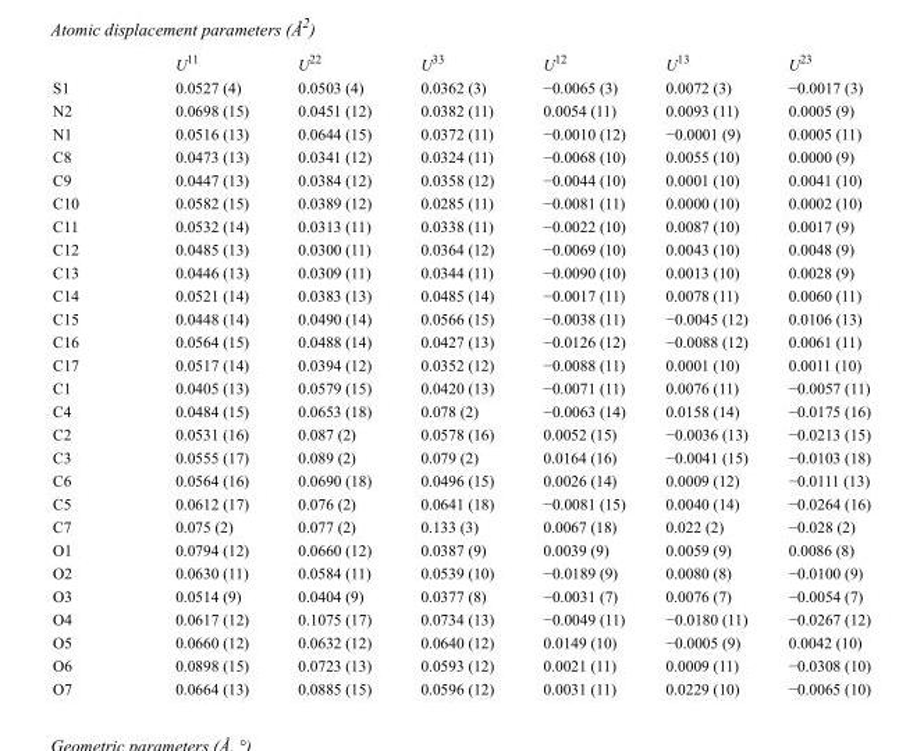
<table><thead><tr><td></td><td>U<sup>11</sup></td><td>U<sup>22</sup></td><td>U<sup>33</sup></td><td>U<sup>12</sup></td><td>U<sup>13</sup></td><td>U<sup>23</sup></td></tr></thead><tbody><tr><td>S1</td><td>0.0527 (4)</td><td>0.0503 (4)</td><td>0.0362 (3)</td><td>−0.0065 (3)</td><td>0.0072 (3)</td><td>−0.0017 (3)</td></tr><tr><td>N2</td><td>0.0698 (15)</td><td>0.0451 (12)</td><td>0.0382 (11)</td><td>0.0054 (11)</td><td>0.0093 (11)</td><td>0.0005 (9)</td></tr><tr><td>N1</td><td>0.0516 (13)</td><td>0.0644 (15)</td><td>0.0372 (11)</td><td>−0.0010 (12)</td><td>−0.0001 (9)</td><td>0.0005 (11)</td></tr><tr><td>C8</td><td>0.0473 (13)</td><td>0.0341 (12)</td><td>0.0324 (11)</td><td>−0.0068 (10)</td><td>0.0055 (10)</td><td>0.0000 (9)</td></tr><tr><td>C9</td><td>0.0447 (13)</td><td>0.0384 (12)</td><td>0.0358 (12)</td><td>−0.0044 (10)</td><td>0.0001 (10)</td><td>0.0041 (10)</td></tr><tr><td>C10</td><td>0.0582 (15)</td><td>0.0389 (12)</td><td>0.0285 (11)</td><td>−0.0081 (11)</td><td>0.0000 (10)</td><td>0.0002 (10)</td></tr><tr><td>C11</td><td>0.0532 (14)</td><td>0.0313 (11)</td><td>0.0338 (11)</td><td>−0.0022 (10)</td><td>0.0087 (10)</td><td>0.0017 (9)</td></tr><tr><td>C12</td><td>0.0485 (13)</td><td>0.0300 (11)</td><td>0.0364 (12)</td><td>−0.0069 (10)</td><td>0.0043 (10)</td><td>0.0048 (9)</td></tr><tr><td>C13</td><td>0.0446 (13)</td><td>0.0309 (11)</td><td>0.0344 (11)</td><td>−0.0090 (10)</td><td>0.0013 (10)</td><td>0.0028 (9)</td></tr><tr><td>C14</td><td>0.0521 (14)</td><td>0.0383 (13)</td><td>0.0485 (14)</td><td>−0.0017 (11)</td><td>0.0078 (11)</td><td>0.0060 (11)</td></tr><tr><td>C15</td><td>0.0448 (14)</td><td>0.0490 (14)</td><td>0.0566 (15)</td><td>−0.0038 (11)</td><td>−0.0045 (12)</td><td>0.0106 (13)</td></tr><tr><td>C16</td><td>0.0564 (15)</td><td>0.0488 (14)</td><td>0.0427 (13)</td><td>−0.0126 (12)</td><td>−0.0088 (12)</td><td>0.0061 (11)</td></tr><tr><td>C17</td><td>0.0517 (14)</td><td>0.0394 (12)</td><td>0.0352 (12)</td><td>−0.0088 (11)</td><td>0.0001 (10)</td><td>0.0011 (10)</td></tr><tr><td>C1</td><td>0.0405 (13)</td><td>0.0579 (15)</td><td>0.0420 (13)</td><td>−0.0071 (11)</td><td>0.0076 (11)</td><td>−0.0057 (11)</td></tr><tr><td>C4</td><td>0.0484 (15)</td><td>0.0653 (18)</td><td>0.078 (2)</td><td>−0.0063 (14)</td><td>0.0158 (14)</td><td>−0.0175 (16)</td></tr><tr><td>C2</td><td>0.0531 (16)</td><td>0.087 (2)</td><td>0.0578 (16)</td><td>0.0052 (15)</td><td>−0.0036 (13)</td><td>−0.0213 (15)</td></tr><tr><td>C3</td><td>0.0555 (17)</td><td>0.089 (2)</td><td>0.079 (2)</td><td>0.0164 (16)</td><td>−0.0041 (15)</td><td>−0.0103 (18)</td></tr><tr><td>C6</td><td>0.0564 (16)</td><td>0.0690 (18)</td><td>0.0496 (15)</td><td>0.0026 (14)</td><td>0.0009 (12)</td><td>−0.0111 (13)</td></tr><tr><td>C5</td><td>0.0612 (17)</td><td>0.076 (2)</td><td>0.0641 (18)</td><td>−0.0081 (15)</td><td>0.0040 (14)</td><td>−0.0264 (16)</td></tr><tr><td>C7</td><td>0.075 (2)</td><td>0.077 (2)</td><td>0.133 (3)</td><td>0.0067 (18)</td><td>0.022 (2)</td><td>−0.028 (2)</td></tr><tr><td>O1</td><td>0.0794 (12)</td><td>0.0660 (12)</td><td>0.0387 (9)</td><td>0.0039 (9)</td><td>0.0059 (9)</td><td>0.0086 (8)</td></tr><tr><td>O2</td><td>0.0630 (11)</td><td>0.0584 (11)</td><td>0.0539 (10)</td><td>−0.0189 (9)</td><td>0.0080 (8)</td><td>−0.0100 (9)</td></tr><tr><td>O3</td><td>0.0514 (9)</td><td>0.0404 (9)</td><td>0.0377 (8)</td><td>−0.0031 (7)</td><td>0.0076 (7)</td><td>−0.0054 (7)</td></tr><tr><td>O4</td><td>0.0617 (12)</td><td>0.1075 (17)</td><td>0.0734 (13)</td><td>−0.0049 (11)</td><td>−0.0180 (11)</td><td>−0.0267 (12)</td></tr><tr><td>O5</td><td>0.0660 (12)</td><td>0.0632 (12)</td><td>0.0640 (12)</td><td>0.0149 (10)</td><td>−0.0005 (9)</td><td>0.0042 (10)</td></tr><tr><td>O6</td><td>0.0898 (15)</td><td>0.0723 (13)</td><td>0.0593 (12)</td><td>0.0021 (11)</td><td>0.0009 (11)</td><td>−0.0308 (10)</td></tr><tr><td>O7</td><td>0.0664 (13)</td><td>0.0885 (15)</td><td>0.0596 (12)</td><td>0.0031 (11)</td><td>0.0229 (10)</td><td>−0.0065 (10)</td></tr></tbody></table>